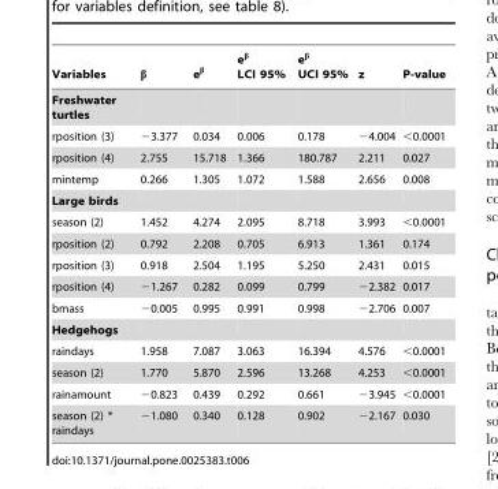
<table><thead><tr><td>Variables</td><td>β</td><td>e<sup>β</sup></td><td>e<sup>β</sup> LCI 95%</td><td>e<sup>β</sup> UCI 95%</td><td>z</td><td>P-value</td></tr></thead><tbody><tr><td colspan="7">Freshwater turtles</td></tr><tr><td>rposition (3)</td><td>−3.377</td><td>0.034</td><td>0.006</td><td>0.178</td><td>−4.004</td><td>&lt;0.0001</td></tr><tr><td>rposition (4)</td><td>2.755</td><td>15.718</td><td>1.366</td><td>180.787</td><td>2.211</td><td>0.027</td></tr><tr><td>mintemp</td><td>0.266</td><td>1.305</td><td>1.072</td><td>1.588</td><td>2.656</td><td>0.008</td></tr><tr><td colspan="7">Large birds</td></tr><tr><td>season (2)</td><td>1.452</td><td>4.274</td><td>2.095</td><td>8.718</td><td>3.993</td><td>&lt;0.0001</td></tr><tr><td>rposition (2)</td><td>0.792</td><td>2.208</td><td>0.705</td><td>6.913</td><td>1.361</td><td>0.174</td></tr><tr><td>rposition (3)</td><td>0.918</td><td>2.504</td><td>1.195</td><td>5.250</td><td>2.431</td><td>0.015</td></tr><tr><td>rposition (4)</td><td>−1.267</td><td>0.282</td><td>0.099</td><td>0.799</td><td>−2.382</td><td>0.017</td></tr><tr><td>bmass</td><td>−0.005</td><td>0.995</td><td>0.991</td><td>0.998</td><td>−2.706</td><td>0.007</td></tr><tr><td colspan="7">Hedgehogs</td></tr><tr><td>raindays</td><td>1.958</td><td>7.087</td><td>3.063</td><td>16.394</td><td>4.576</td><td>&lt;0.0001</td></tr><tr><td>season (2)</td><td>1.770</td><td>5.870</td><td>2.596</td><td>13.268</td><td>4.253</td><td>&lt;0.0001</td></tr><tr><td>rainamount</td><td>−0.823</td><td>0.439</td><td>0.292</td><td>0.661</td><td>−3.945</td><td>&lt;0.0001</td></tr><tr><td>season (2) * raindays</td><td>−1.080</td><td>0.340</td><td>0.128</td><td>0.902</td><td>−2.167</td><td>0.030</td></tr></tbody></table>